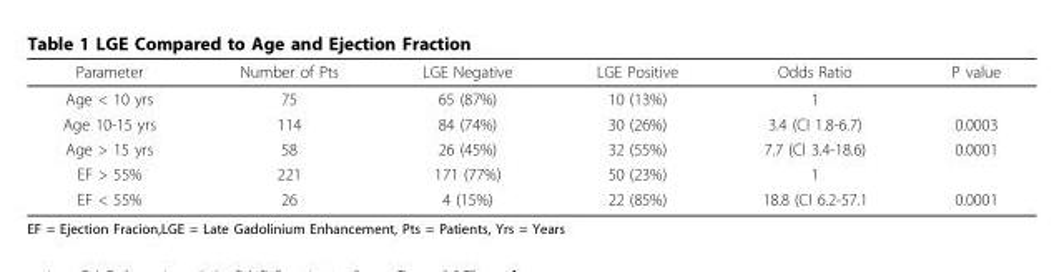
<table><thead><tr><td>Parameter</td><td>Number of Pts</td><td>LGE Negative</td><td>LGE Positive</td><td>Odds Ratio</td><td>P value</td></tr></thead><tbody><tr><td>Age &lt; 10 yrs</td><td>75</td><td>65 (87%)</td><td>10 (13%)</td><td>1</td><td></td></tr><tr><td>Age 10-15 yrs</td><td>114</td><td>84 (74%)</td><td>30 (26%)</td><td>3.4 (CI 1.8-6.7)</td><td>0.0003</td></tr><tr><td>Age &gt; 15 yrs</td><td>58</td><td>26 (45%)</td><td>32 (55%)</td><td>7.7 (CI 3.4-18.6)</td><td>0.0001</td></tr><tr><td>EF &gt; 55%</td><td>221</td><td>171 (77%)</td><td>50 (23%)</td><td>1</td><td></td></tr><tr><td>EF &lt; 55%</td><td>26</td><td>4 (15%)</td><td>22 (85%)</td><td>18.8 (CI 6.2-57.1</td><td>0.0001</td></tr></tbody></table>